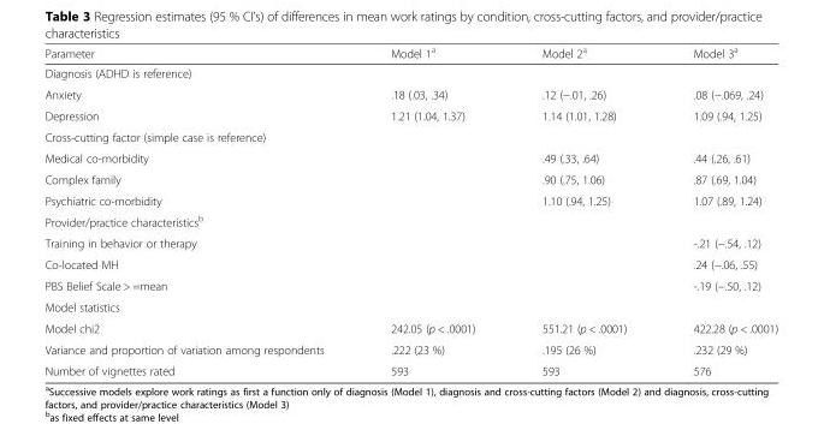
<table><thead><tr><td>Parameter</td><td>Model 1<sup>a</sup></td><td>Model 2<sup>a</sup></td><td>Model 3<sup>a</sup></td></tr></thead><tbody><tr><td colspan="4">Diagnosis (ADHD is reference)</td></tr><tr><td>Anxiety</td><td>.18 (.03, .34)</td><td>.12 (−.01, .26)</td><td>.08 (−.069, .24)</td></tr><tr><td>Depression</td><td>1.21 (1.04, 1.37)</td><td>1.14 (1.01, 1.28)</td><td>1.09 (.94, 1.25)</td></tr><tr><td colspan="4">Cross-cutting factor (simple case is reference)</td></tr><tr><td>Medical co-morbidity</td><td></td><td>.49 (.33, .64)</td><td>.44 (.26, .61)</td></tr><tr><td>Complex family</td><td></td><td>.90 (.75, 1.06)</td><td>.87 (.69, 1.04)</td></tr><tr><td>Psychiatric co-morbidity</td><td></td><td>1.10 (.94, 1.25)</td><td>1.07 (.89, 1.24)</td></tr><tr><td colspan="4">Provider/practice characteristics<sup>b</sup></td></tr><tr><td>Training in behavior or therapy</td><td></td><td></td><td>-.21 (−.54, .12)</td></tr><tr><td>Co-located MH</td><td></td><td></td><td>.24 (−.06, .55)</td></tr><tr><td>PBS Belief Scale &gt; =mean</td><td></td><td></td><td>-.19 (−.50, .12)</td></tr><tr><td colspan="4">Model statistics</td></tr><tr><td>Model chi2</td><td>242.05 (p &lt; .0001)</td><td>551.21 (p &lt; .0001)</td><td>422.28 (p &lt; .0001)</td></tr><tr><td>Variance and proportion of variation among respondents</td><td>.222 (23 %)</td><td>.195 (26 %)</td><td>.232 (29 %)</td></tr><tr><td>Number of vignettes rated</td><td>593</td><td>593</td><td>576</td></tr></tbody></table>